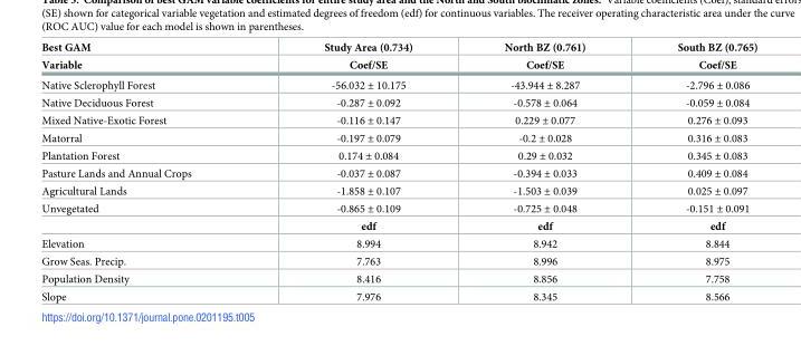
<table><thead><tr><td rowspan="2">Best GAM Variable</td><td rowspan="2">Study Area (0.734) Coef/SE</td><td rowspan="2">North BZ (0.761) Coef/SE</td><td rowspan="2">South BZ (0.765) Coef/SE</td></tr><tr></tr></thead><tbody><tr><td>Native Sclerophyll Forest</td><td>-56.032 ± 10.175</td><td>-43.944 ± 8.287</td><td>-2.796 ± 0.086</td></tr><tr><td>Native Deciduous Forest</td><td>-0.287 ± 0.092</td><td>-0.578 ± 0.064</td><td>-0.059 ± 0.084</td></tr><tr><td>Mixed Native-Exotic Forest</td><td>-0.116 ± 0.147</td><td>0.229 ± 0.077</td><td>0.276 ± 0.093</td></tr><tr><td>Matorral</td><td>-0.197 ± 0.079</td><td>-0.2 ± 0.028</td><td>0.316 ± 0.083</td></tr><tr><td>Plantation Forest</td><td>0.174 ± 0.084</td><td>0.29 ± 0.032</td><td>0.345 ± 0.083</td></tr><tr><td>Pasture Lands and Annual Crops</td><td>-0.037 ± 0.087</td><td>-0.394 ± 0.033</td><td>0.409 ± 0.084</td></tr><tr><td>Agricultural Lands</td><td>-1.858 ± 0.107</td><td>-1.503 ± 0.039</td><td>0.025 ± 0.097</td></tr><tr><td rowspan="2">Unvegetated</td><td>-0.865 ± 0.109</td><td>-0.725 ± 0.048</td><td>-0.151 ± 0.091</td></tr><tr><td>edf</td><td>edf</td><td>edf</td></tr><tr><td>Elevation</td><td>8.994</td><td>8.942</td><td>8.844</td></tr><tr><td>Grow Seas. Precip.</td><td>7.763</td><td>8.996</td><td>8.975</td></tr><tr><td>Population Density</td><td>8.416</td><td>8.856</td><td>7.758</td></tr><tr><td>Slope</td><td>7.976</td><td>8.345</td><td>8.566</td></tr></tbody></table>